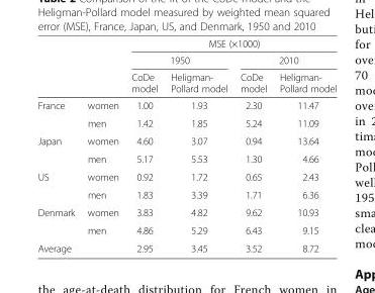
<table><thead><tr><td rowspan="3"></td><td rowspan="3"></td><td colspan="4">MSE (×1000)</td></tr><tr><td colspan="2">1950</td><td colspan="2">2010</td></tr><tr><td>CoDe model</td><td>Heligman- Pollard model</td><td>CoDe model</td><td>Heligman- Pollard model</td></tr></thead><tbody><tr><td rowspan="2">France</td><td>women</td><td>1.00</td><td>1.93</td><td>2.30</td><td>11.47</td></tr><tr><td>men</td><td>1.42</td><td>1.85</td><td>5.24</td><td>11.09</td></tr><tr><td rowspan="2">Japan</td><td>women</td><td>4.60</td><td>3.07</td><td>0.94</td><td>13.64</td></tr><tr><td>men</td><td>5.17</td><td>5.53</td><td>1.30</td><td>4.66</td></tr><tr><td rowspan="2">US</td><td>women</td><td>0.92</td><td>1.72</td><td>0.65</td><td>2.43</td></tr><tr><td>men</td><td>1.83</td><td>3.39</td><td>1.71</td><td>6.36</td></tr><tr><td rowspan="2">Denmark</td><td>women</td><td>3.83</td><td>4.82</td><td>9.62</td><td>10.93</td></tr><tr><td>men</td><td>4.86</td><td>5.29</td><td>6.43</td><td>9.15</td></tr><tr><td>Average</td><td></td><td>2.95</td><td>3.45</td><td>3.52</td><td>8.72</td></tr></tbody></table>